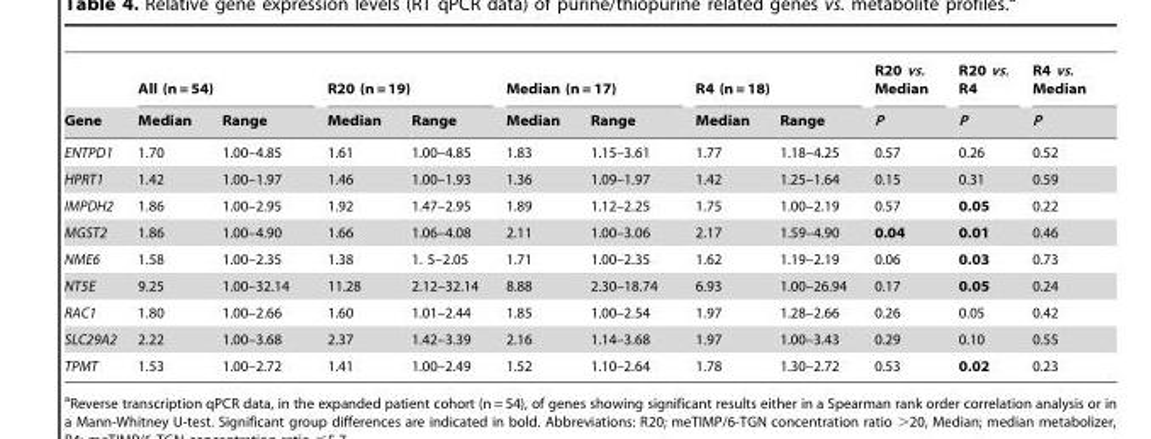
<table><thead><tr><td rowspan="2">Gene</td><td colspan="2">All (n = 54)</td><td colspan="2">R20 (n = 19)</td><td colspan="2">Median (n = 17)</td><td colspan="2">R4 (n = 18)</td><td rowspan="2">R20 vs. Median P</td><td rowspan="2">R20 vs. R4 P</td><td rowspan="2">R4 vs. Median P</td></tr><tr><td>Median</td><td>Range</td><td>Median</td><td>Range</td><td>Median</td><td>Range</td><td>Median</td><td>Range</td></tr></thead><tbody><tr><td>ENTPD1</td><td>1.70</td><td>1.00–4.85</td><td>1.61</td><td>1.00–4.85</td><td>1.83</td><td>1.15–3.61</td><td>1.77</td><td>1.18–4.25</td><td>0.57</td><td>0.26</td><td>0.52</td></tr><tr><td>HPRT1</td><td>1.42</td><td>1.00–1.97</td><td>1.46</td><td>1.00–1.93</td><td>1.36</td><td>1.09–1.97</td><td>1.42</td><td>1.25–1.64</td><td>0.15</td><td>0.31</td><td>0.59</td></tr><tr><td>IMPDH2</td><td>1.86</td><td>1.00–2.95</td><td>1.92</td><td>1.47–2.95</td><td>1.89</td><td>1.12–2.25</td><td>1.75</td><td>1.00–2.19</td><td>0.57</td><td>0.05</td><td>0.22</td></tr><tr><td>MGST2</td><td>1.86</td><td>1.00–4.90</td><td>1.66</td><td>1.06–4.08</td><td>2.11</td><td>1.00–3.06</td><td>2.17</td><td>1.59–4.90</td><td>0.04</td><td>0.01</td><td>0.46</td></tr><tr><td>NME6</td><td>1.58</td><td>1.00–2.35</td><td>1.38</td><td>1. 5–2.05</td><td>1.71</td><td>1.00–2.35</td><td>1.62</td><td>1.19–2.19</td><td>0.06</td><td>0.03</td><td>0.73</td></tr><tr><td>NT5E</td><td>9.25</td><td>1.00–32.14</td><td>11.28</td><td>2.12–32.14</td><td>8.88</td><td>2.30–18.74</td><td>6.93</td><td>1.00–26.94</td><td>0.17</td><td>0.05</td><td>0.24</td></tr><tr><td>RAC1</td><td>1.80</td><td>1.00–2.66</td><td>1.60</td><td>1.01–2.44</td><td>1.85</td><td>1.00–2.54</td><td>1.97</td><td>1.28–2.66</td><td>0.26</td><td>0.05</td><td>0.42</td></tr><tr><td>SLC29A2</td><td>2.22</td><td>1.00–3.68</td><td>2.37</td><td>1.42–3.39</td><td>2.16</td><td>1.14–3.68</td><td>1.97</td><td>1.00–3.43</td><td>0.29</td><td>0.10</td><td>0.55</td></tr><tr><td>TPMT</td><td>1.53</td><td>1.00–2.72</td><td>1.41</td><td>1.00–2.49</td><td>1.52</td><td>1.10–2.64</td><td>1.78</td><td>1.30–2.72</td><td>0.53</td><td>0.02</td><td>0.23</td></tr></tbody></table>